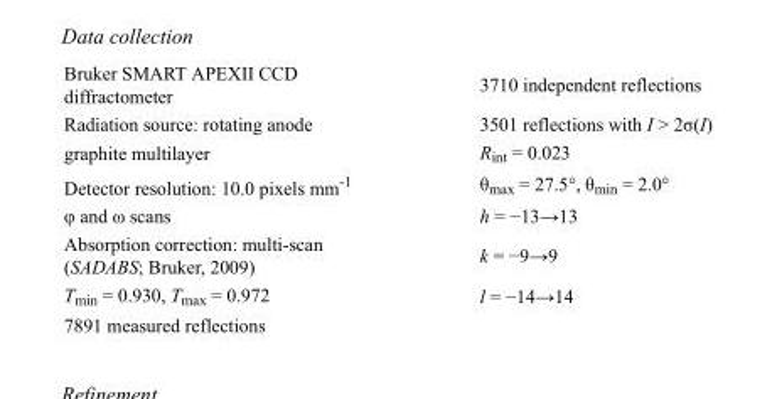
<table><tbody><tr><td>Bruker SMART APEXII CCD diffractometer</td><td>3710 independent reflections</td></tr><tr><td>Radiation source: rotating anode</td><td>3501 reflections with I &gt; 2σ(I)</td></tr><tr><td>graphite multilayer</td><td>R<sub>int</sub> = 0.023</td></tr><tr><td>Detector resolution: 10.0 pixels mm<sup>-1</sup></td><td>θ<sub>max</sub> = 27.5°, θ<sub>min</sub> = 2.0°</td></tr><tr><td>φ and ω scans</td><td>h = −13→13</td></tr><tr><td>Absorption correction: multi-scan (SADABS; Bruker, 2009)</td><td>k = −9→9</td></tr><tr><td>T<sub>min</sub> = 0.930, T<sub>max</sub> = 0.972</td><td>l = −14→14</td></tr><tr><td>7891 measured reflections</td><td></td></tr></tbody></table>